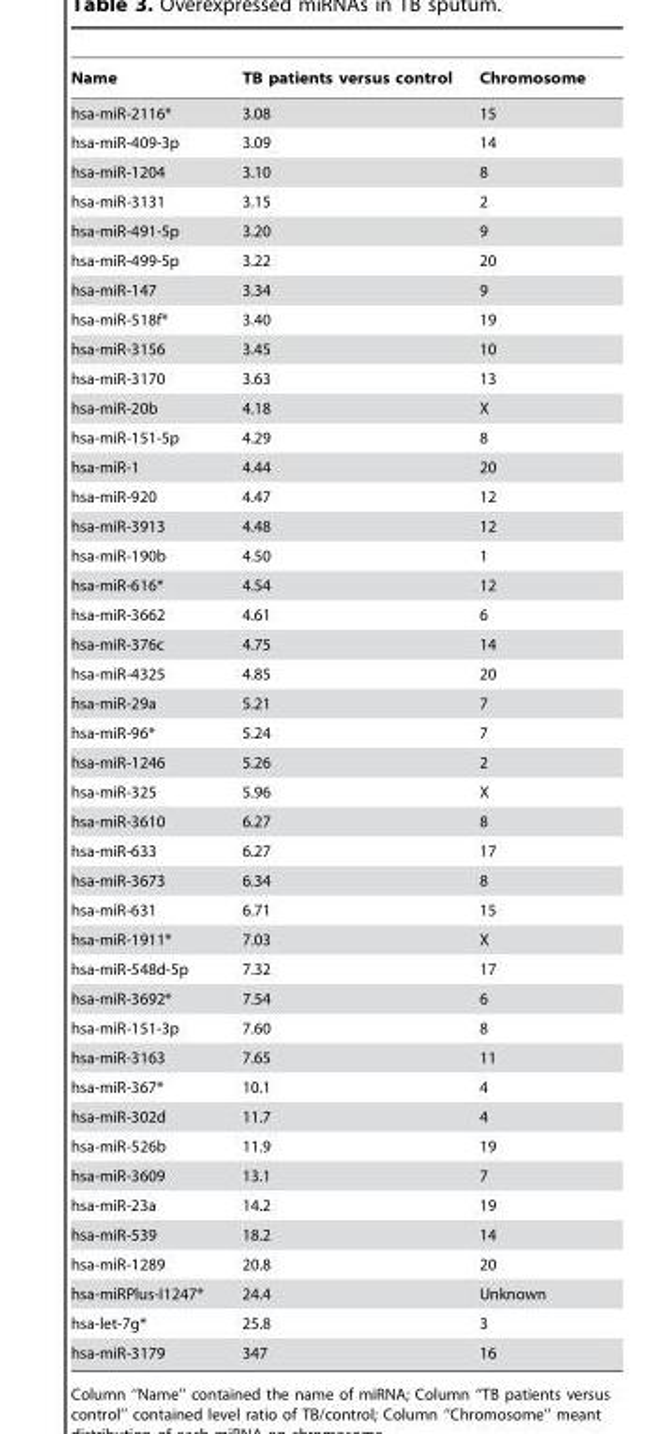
<table><thead><tr><td>Name</td><td>TB patients versus control</td><td>Chromosome</td></tr></thead><tbody><tr><td>hsa-miR-2116*</td><td>3.08</td><td>15</td></tr><tr><td>hsa-miR-409-3p</td><td>3.09</td><td>14</td></tr><tr><td>hsa-miR-1204</td><td>3.10</td><td>8</td></tr><tr><td>hsa-miR-3131</td><td>3.15</td><td>2</td></tr><tr><td>hsa-miR-491-5p</td><td>3.20</td><td>9</td></tr><tr><td>hsa-miR-499-5p</td><td>3.22</td><td>20</td></tr><tr><td>hsa-miR-147</td><td>3.34</td><td>9</td></tr><tr><td>hsa-miR-518f*</td><td>3.40</td><td>19</td></tr><tr><td>hsa-miR-3156</td><td>3.45</td><td>10</td></tr><tr><td>hsa-miR-3170</td><td>3.63</td><td>13</td></tr><tr><td>hsa-miR-20b</td><td>4.18</td><td>X</td></tr><tr><td>hsa-miR-151-5p</td><td>4.29</td><td>8</td></tr><tr><td>hsa-miR-1</td><td>4.44</td><td>20</td></tr><tr><td>hsa-miR-920</td><td>4.47</td><td>12</td></tr><tr><td>hsa-miR-3913</td><td>4.48</td><td>12</td></tr><tr><td>hsa-miR-190b</td><td>4.50</td><td>1</td></tr><tr><td>hsa-miR-616*</td><td>4.54</td><td>12</td></tr><tr><td>hsa-miR-3662</td><td>4.61</td><td>6</td></tr><tr><td>hsa-miR-376c</td><td>4.75</td><td>14</td></tr><tr><td>hsa-miR-4325</td><td>4.85</td><td>20</td></tr><tr><td>hsa-miR-29a</td><td>5.21</td><td>7</td></tr><tr><td>hsa-miR-96*</td><td>5.24</td><td>7</td></tr><tr><td>hsa-miR-1246</td><td>5.26</td><td>2</td></tr><tr><td>hsa-miR-325</td><td>5.96</td><td>X</td></tr><tr><td>hsa-miR-3610</td><td>6.27</td><td>8</td></tr><tr><td>hsa-miR-633</td><td>6.27</td><td>17</td></tr><tr><td>hsa-miR-3673</td><td>6.34</td><td>8</td></tr><tr><td>hsa-miR-631</td><td>6.71</td><td>15</td></tr><tr><td>hsa-miR-1911*</td><td>7.03</td><td>X</td></tr><tr><td>hsa-miR-548d-5p</td><td>7.32</td><td>17</td></tr><tr><td>hsa-miR-3692*</td><td>7.54</td><td>6</td></tr><tr><td>hsa-miR-151-3p</td><td>7.60</td><td>8</td></tr><tr><td>hsa-miR-3163</td><td>7.65</td><td>11</td></tr><tr><td>hsa-miR-367*</td><td>10.1</td><td>4</td></tr><tr><td>hsa-miR-302d</td><td>11.7</td><td>4</td></tr><tr><td>hsa-miR-526b</td><td>11.9</td><td>19</td></tr><tr><td>hsa-miR-3609</td><td>13.1</td><td>7</td></tr><tr><td>hsa-miR-23a</td><td>14.2</td><td>19</td></tr><tr><td>hsa-miR-539</td><td>18.2</td><td>14</td></tr><tr><td>hsa-miR-1289</td><td>20.8</td><td>20</td></tr><tr><td>hsa-miRPlus-I1247*</td><td>24.4</td><td>Unknown</td></tr><tr><td>hsa-let-7g*</td><td>25.8</td><td>3</td></tr><tr><td>hsa-miR-3179</td><td>347</td><td>16</td></tr></tbody></table>